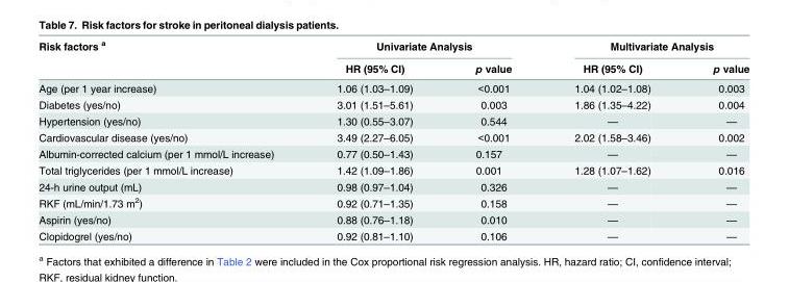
<table><thead><tr><td rowspan="2">Risk factors <sup>a</sup></td><td colspan="2">Univariate Analysis</td><td colspan="2">Multivariate Analysis</td></tr><tr><td>HR (95% CI)</td><td>p value</td><td>HR (95% CI)</td><td>p value</td></tr></thead><tbody><tr><td>Age (per 1 year increase)</td><td>1.06 (1.03–1.09)</td><td>&lt;0.001</td><td>1.04 (1.02–1.08)</td><td>0.003</td></tr><tr><td>Diabetes (yes/no)</td><td>3.01 (1.51–5.61)</td><td>0.003</td><td>1.86 (1.35–4.22)</td><td>0.004</td></tr><tr><td>Hypertension (yes/no)</td><td>1.30 (0.55–3.07)</td><td>0.544</td><td>—</td><td>—</td></tr><tr><td>Cardiovascular disease (yes/no)</td><td>3.49 (2.27–6.05)</td><td>&lt;0.001</td><td>2.02 (1.58–3.46)</td><td>0.002</td></tr><tr><td>Albumin-corrected calcium (per 1 mmol/L increase)</td><td>0.77 (0.50–1.43)</td><td>0.157</td><td>—</td><td>—</td></tr><tr><td>Total triglycerides (per 1 mmol/L increase)</td><td>1.42 (1.09–1.86)</td><td>0.001</td><td>1.28 (1.07–1.62)</td><td>0.016</td></tr><tr><td>24-h urine output (mL)</td><td>0.98 (0.97–1.04)</td><td>0.326</td><td>—</td><td>—</td></tr><tr><td>RKF (mL/min/1.73 m<sup>2</sup>)</td><td>0.92 (0.71–1.35)</td><td>0.158</td><td>—</td><td>—</td></tr><tr><td>Aspirin (yes/no)</td><td>0.88 (0.76–1.18)</td><td>0.010</td><td>—</td><td>—</td></tr><tr><td>Clopidogrel (yes/no)</td><td>0.92 (0.81–1.10)</td><td>0.106</td><td>—</td><td>—</td></tr></tbody></table>